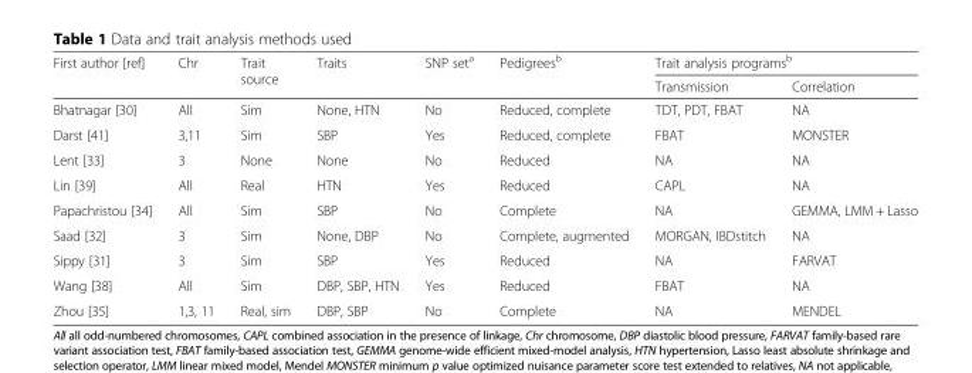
<table><thead><tr><td rowspan="2">First author [ref]</td><td rowspan="2">Chr</td><td rowspan="2">Trait source</td><td rowspan="2">Traits</td><td rowspan="2">SNP set<sup>a</sup></td><td rowspan="2">Pedigrees<sup>b</sup></td><td colspan="2">Trait analysis programs<sup>b</sup></td></tr><tr><td>Transmission</td><td>Correlation</td></tr></thead><tbody><tr><td>Bhatnagar [30]</td><td>All</td><td>Sim</td><td>None, HTN</td><td>No</td><td>Reduced, complete</td><td>TDT, PDT, FBAT</td><td>NA</td></tr><tr><td>Darst [41]</td><td>3,11</td><td>Sim</td><td>SBP</td><td>Yes</td><td>Reduced, complete</td><td>FBAT</td><td>MONSTER</td></tr><tr><td>Lent [33]</td><td>3</td><td>None</td><td>None</td><td>No</td><td>Reduced</td><td>NA</td><td>NA</td></tr><tr><td>Lin [39]</td><td>All</td><td>Real</td><td>HTN</td><td>Yes</td><td>Reduced</td><td>CAPL</td><td>NA</td></tr><tr><td>Papachristou [34]</td><td>All</td><td>Sim</td><td>SBP</td><td>No</td><td>Complete</td><td>NA</td><td>GEMMA, LMM + Lasso</td></tr><tr><td>Saad [32]</td><td>3</td><td>Sim</td><td>None, DBP</td><td>No</td><td>Complete, augmented</td><td>MORGAN, IBDstitch</td><td>NA</td></tr><tr><td>Sippy [31]</td><td>3</td><td>Sim</td><td>SBP</td><td>Yes</td><td>Reduced</td><td>NA</td><td>FARVAT</td></tr><tr><td>Wang [38]</td><td>All</td><td>Sim</td><td>DBP, SBP, HTN</td><td>Yes</td><td>Reduced</td><td>FBAT</td><td>NA</td></tr><tr><td>Zhou [35]</td><td>1,3, 11</td><td>Real, sim</td><td>DBP, SBP</td><td>No</td><td>Complete</td><td>NA</td><td>MENDEL</td></tr></tbody></table>